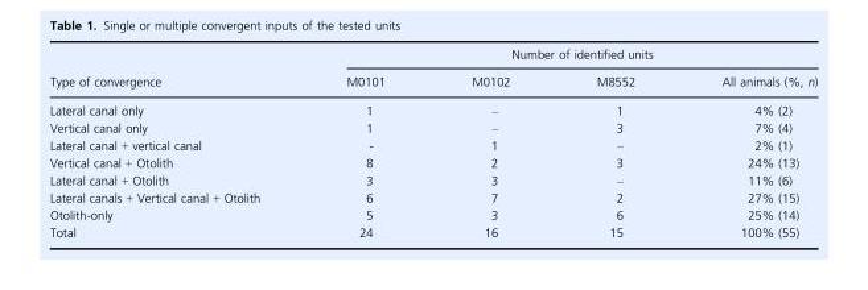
<table><thead><tr><td rowspan="2">Type of convergence</td><td colspan="4">Number of identified units</td></tr><tr><td>M0101</td><td>M0102</td><td>M8552</td><td>All animals (%, n)</td></tr></thead><tbody><tr><td>Lateral canal only</td><td>1</td><td>–</td><td>1</td><td>4% (2)</td></tr><tr><td>Vertical canal only</td><td>1</td><td>–</td><td>3</td><td>7% (4)</td></tr><tr><td>Lateral canal + vertical canal</td><td>-</td><td>1</td><td>–</td><td>2% (1)</td></tr><tr><td>Vertical canal + Otolith</td><td>8</td><td>2</td><td>3</td><td>24% (13)</td></tr><tr><td>Lateral canal + Otolith</td><td>3</td><td>3</td><td>–</td><td>11% (6)</td></tr><tr><td>Lateral canals + Vertical canal + Otolith</td><td>6</td><td>7</td><td>2</td><td>27% (15)</td></tr><tr><td>Otolith-only</td><td>5</td><td>3</td><td>6</td><td>25% (14)</td></tr><tr><td>Total</td><td>24</td><td>16</td><td>15</td><td>100% (55)</td></tr></tbody></table>